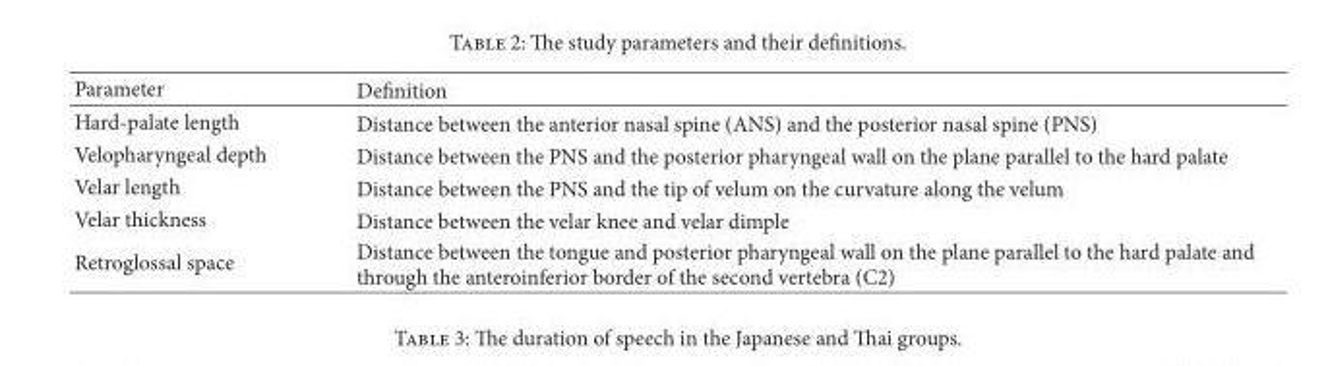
<table><thead><tr><td>Parameter</td><td>Definition</td></tr></thead><tbody><tr><td>Hard-palate length</td><td>Distance between the anterior nasal spine (ANS) and the posterior nasal spine (PNS)</td></tr><tr><td>Velopharyngeal depth</td><td>Distance between the PNS and the posterior pharyngeal wall on the plane parallel to the hard palate</td></tr><tr><td>Velar length</td><td>Distance between the PNS and the tip of velum on the curvature along the velum</td></tr><tr><td>Velar thickness</td><td>Distance between the velar knee and velar dimple</td></tr><tr><td>Retroglossal space</td><td>Distance between the tongue and posterior pharyngeal wall on the plane parallel to the hard palate and through the anteroinferior border of the second vertebra (C2)</td></tr></tbody></table>